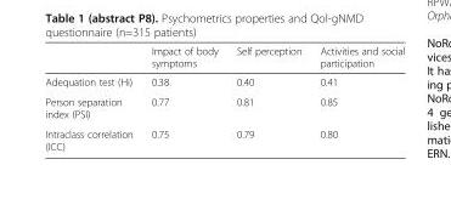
<table><thead><tr><td></td><td>Impact of body symptoms</td><td>Self perception</td><td>Activities and social participation</td></tr></thead><tbody><tr><td>Adequation test (Hi)</td><td>0.38</td><td>0.40</td><td>0.41</td></tr><tr><td>Person separation index (PSI)</td><td>0.77</td><td>0.81</td><td>0.85</td></tr><tr><td>Intraclass correlation (ICC)</td><td>0.75</td><td>0.79</td><td>0.80</td></tr></tbody></table>